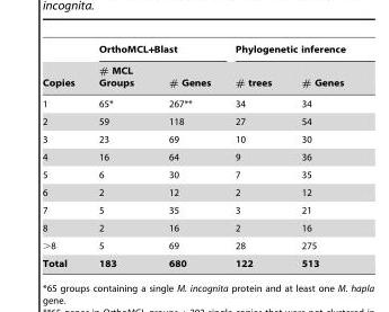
<table><thead><tr><td rowspan="2">Copies</td><td colspan="2">OrthoMCL+Blast</td><td colspan="2">Phylogenetic inference</td></tr><tr><td># MCL Groups</td><td># Genes</td><td># trees</td><td># Genes</td></tr></thead><tbody><tr><td>1</td><td>65*</td><td>267**</td><td>34</td><td>34</td></tr><tr><td>2</td><td>59</td><td>118</td><td>27</td><td>54</td></tr><tr><td>3</td><td>23</td><td>69</td><td>10</td><td>30</td></tr><tr><td>4</td><td>16</td><td>64</td><td>9</td><td>36</td></tr><tr><td>5</td><td>6</td><td>30</td><td>7</td><td>35</td></tr><tr><td>6</td><td>2</td><td>12</td><td>2</td><td>12</td></tr><tr><td>7</td><td>5</td><td>35</td><td>3</td><td>21</td></tr><tr><td>8</td><td>2</td><td>16</td><td>2</td><td>16</td></tr><tr><td>&gt;8</td><td>5</td><td>69</td><td>28</td><td>275</td></tr><tr><td>Total</td><td>183</td><td>680</td><td>122</td><td>513</td></tr></tbody></table>